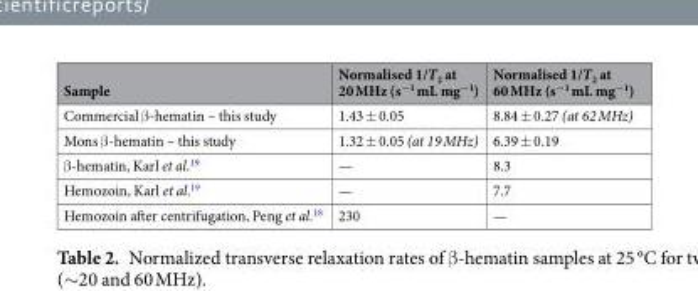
<table><thead><tr><td>Sample</td><td>Normalised 1/T<sub>2</sub> at 20 MHz (s<sup>−1</sup> mL mg<sup>−1</sup>)</td><td>Normalised 1/T<sub>2</sub> at 60 MHz (s<sup>−1</sup> mL mg<sup>−1</sup>)</td></tr></thead><tbody><tr><td>Commercial β-hematin – this study</td><td>1.43 ± 0.05</td><td>8.84 ± 0.27 (at 62 MHz)</td></tr><tr><td>Mons β-hematin – this study</td><td>1.32 ± 0.05 (at 19 MHz)</td><td>6.39 ± 0.19</td></tr><tr><td>β-hematin, Karl et al.<sup>19</sup></td><td>—</td><td>8.3</td></tr><tr><td>Hemozoin, Karl et al.<sup>19</sup></td><td>—</td><td>7.7</td></tr><tr><td>Hemozoin after centrifugation, Peng et al.<sup>18</sup></td><td>230</td><td>—</td></tr></tbody></table>